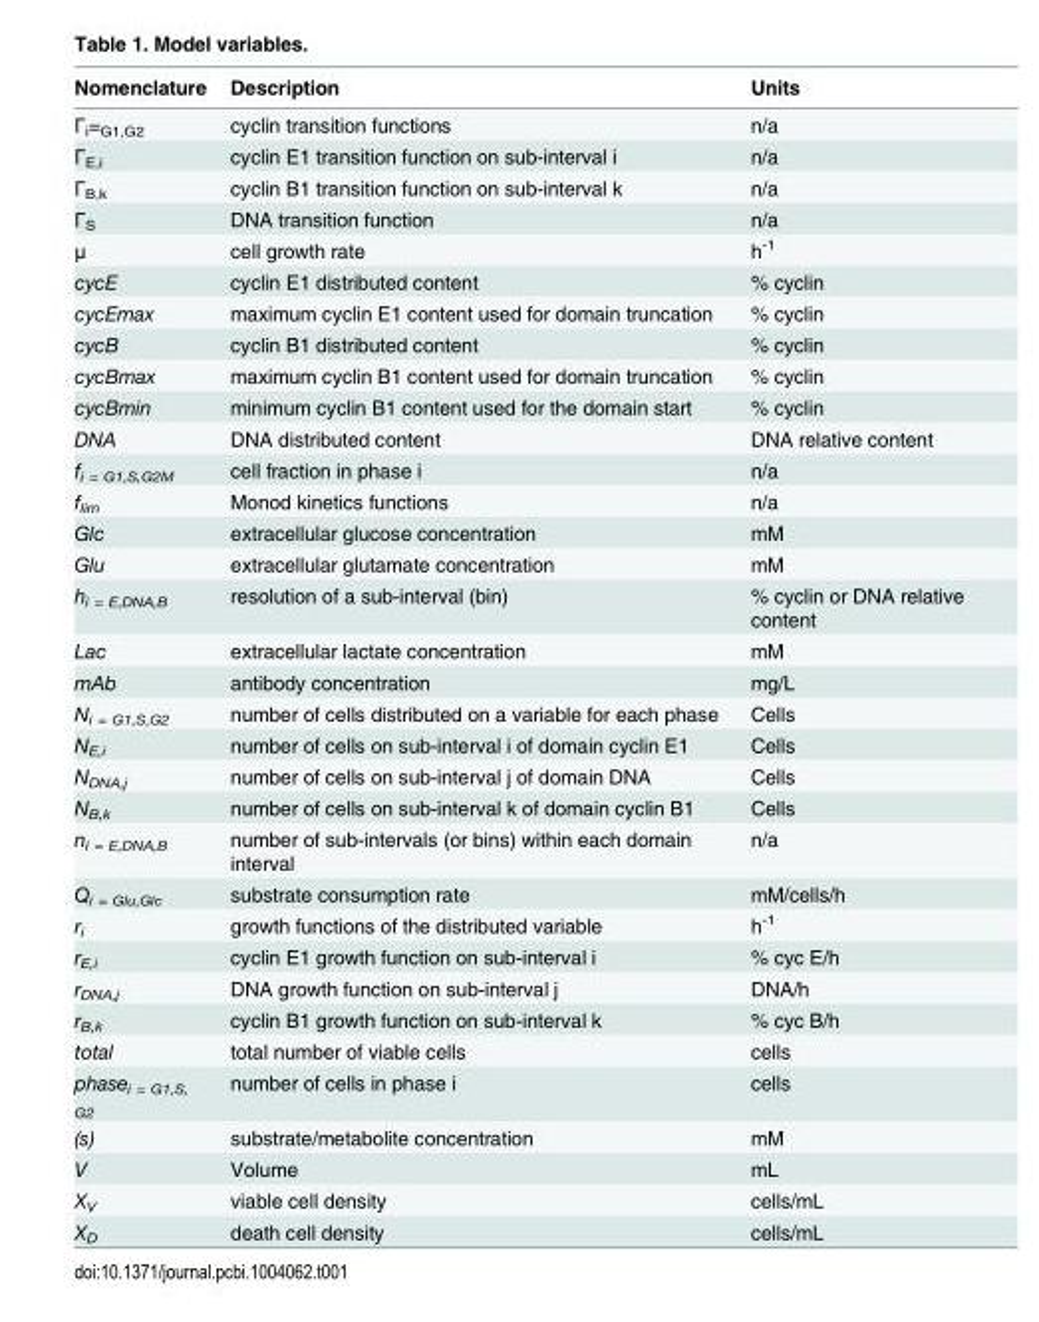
<table><thead><tr><td>Nomenclature</td><td>Description</td><td>Units</td></tr></thead><tbody><tr><td>Γ<sub>i</sub>=<sub>G1,G2</sub></td><td>cyclin transition functions</td><td>n/a</td></tr><tr><td>Γ<sub>E,i</sub></td><td>cyclin E1 transition function on sub-interval i</td><td>n/a</td></tr><tr><td>Γ<sub>B,k</sub></td><td>cyclin B1 transition function on sub-interval k</td><td>n/a</td></tr><tr><td>Γ<sub>S</sub></td><td>DNA transition function</td><td>n/a</td></tr><tr><td>μ</td><td>cell growth rate</td><td>h<sup>-1</sup></td></tr><tr><td>cycE</td><td>cyclin E1 distributed content</td><td>% cyclin</td></tr><tr><td>cycEmax</td><td>maximum cyclin E1 content used for domain truncation</td><td>% cyclin</td></tr><tr><td>cycB</td><td>cyclin B1 distributed content</td><td>% cyclin</td></tr><tr><td>cycBmax</td><td>maximum cyclin B1 content used for domain truncation</td><td>% cyclin</td></tr><tr><td>cycBmin</td><td>minimum cyclin B1 content used for the domain start</td><td>% cyclin</td></tr><tr><td>DNA</td><td>DNA distributed content</td><td>DNA relative content</td></tr><tr><td>f<sub>i = G1,S,G2M</sub></td><td>cell fraction in phase i</td><td>n/a</td></tr><tr><td>f<sub>lim</sub></td><td>Monod kinetics functions</td><td>n/a</td></tr><tr><td>Glc</td><td>extracellular glucose concentration</td><td>mM</td></tr><tr><td>Glu</td><td>extracellular glutamate concentration</td><td>mM</td></tr><tr><td>h<sub>i = E,DNA,B</sub></td><td>resolution of a sub-interval (bin)</td><td>% cyclin or DNA relative content</td></tr><tr><td>Lac</td><td>extracellular lactate concentration</td><td>mM</td></tr><tr><td>mAb</td><td>antibody concentration</td><td>mg/L</td></tr><tr><td>N<sub>i = G1,S,G2</sub></td><td>number of cells distributed on a variable for each phase</td><td>Cells</td></tr><tr><td>N<sub>E,i</sub></td><td>number of cells on sub-interval i of domain cyclin E1</td><td>Cells</td></tr><tr><td>N<sub>DNA,j</sub></td><td>number of cells on sub-interval j of domain DNA</td><td>Cells</td></tr><tr><td>N<sub>B,k</sub></td><td>number of cells on sub-interval k of domain cyclin B1</td><td>Cells</td></tr><tr><td>n<sub>i = E,DNA,B</sub></td><td>number of sub-intervals (or bins) within each domain interval</td><td>n/a</td></tr><tr><td>Q<sub>i = Glu,Glc</sub></td><td>substrate consumption rate</td><td>mM/cells/h</td></tr><tr><td>r<sub>i</sub></td><td>growth functions of the distributed variable</td><td>h<sup>-1</sup></td></tr><tr><td>r<sub>E,i</sub></td><td>cyclin E1 growth function on sub-interval i</td><td>% cyc E/h</td></tr><tr><td>r<sub>DNA,j</sub></td><td>DNA growth function on sub-interval j</td><td>DNA/h</td></tr><tr><td>r<sub>B,k</sub></td><td>cyclin B1 growth function on sub-interval k</td><td>% cyc B/h</td></tr><tr><td>total</td><td>total number of viable cells</td><td>cells</td></tr><tr><td>phase<sub>i = G1,S, G2</sub></td><td>number of cells in phase i</td><td>cells</td></tr><tr><td>(s)</td><td>substrate/metabolite concentration</td><td>mM</td></tr><tr><td>V</td><td>Volume</td><td>mL</td></tr><tr><td>X<sub>V</sub></td><td>viable cell density</td><td>cells/mL</td></tr><tr><td>X<sub>D</sub></td><td>death cell density</td><td>cells/mL</td></tr></tbody></table>